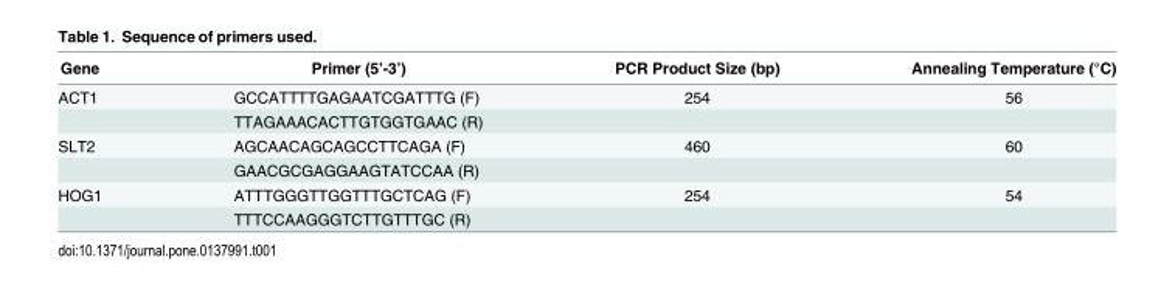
<table><thead><tr><td>Gene</td><td>Primer (5’-3’)</td><td>PCR Product Size (bp)</td><td>Annealing Temperature (°C)</td></tr></thead><tbody><tr><td rowspan="2">ACT1</td><td>GCCATTTTGAGAATCGATTTG (F)</td><td>254</td><td>56</td></tr><tr><td>TTAGAAACACTTGTGGTGAAC (R)</td><td></td><td></td></tr><tr><td rowspan="2">SLT2</td><td>AGCAACAGCAGCCTTCAGA (F)</td><td>460</td><td>60</td></tr><tr><td>GAACGCGAGGAAGTATCCAA (R)</td><td></td><td></td></tr><tr><td rowspan="2">HOG1</td><td>ATTTGGGTTGGTTTGCTCAG (F)</td><td>254</td><td>54</td></tr><tr><td>TTTCCAAGGGTCTTGTTTGC (R)</td><td></td><td></td></tr></tbody></table>